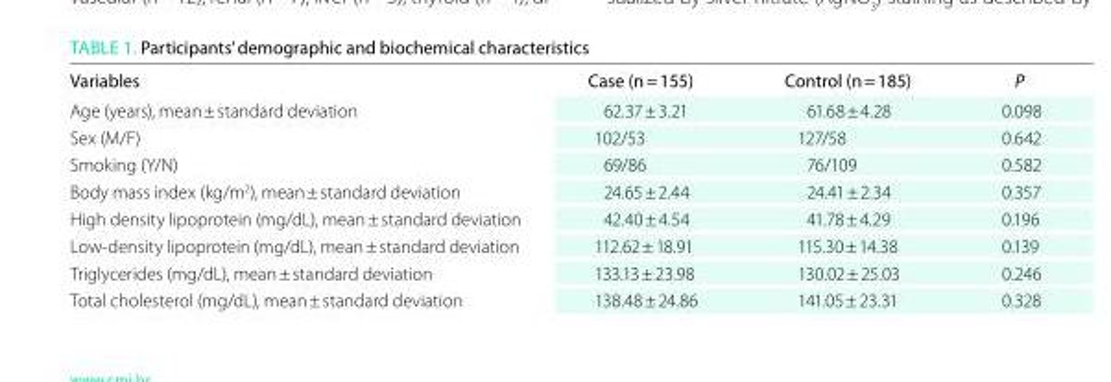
<table><thead><tr><td>Variables</td><td>Case (n = 155)</td><td>Control (n = 185)</td><td>P</td></tr></thead><tbody><tr><td>Age (years), mean ± standard deviation</td><td>62.37 ± 3.21</td><td>61.68 ± 4.28</td><td>0.098</td></tr><tr><td>Sex (M/F)</td><td>102/53</td><td>127/58</td><td>0.642</td></tr><tr><td>Smoking (Y/N)</td><td>69/86</td><td>76/109</td><td>0.582</td></tr><tr><td>Body mass index (kg/m<sup>2</sup>), mean ± standard deviation</td><td>24.65 ± 2.44</td><td>24.41 ± 2.34</td><td>0.357</td></tr><tr><td>High density lipoprotein (mg/dL), mean ± standard deviation</td><td>42.40 ± 4.54</td><td>41.78 ± 4.29</td><td>0.196</td></tr><tr><td>Low-density lipoprotein (mg/dL), mean ± standard deviation</td><td>112.62 ± 18.91</td><td>115.30 ± 14.38</td><td>0.139</td></tr><tr><td>Triglycerides (mg/dL), mean ± standard deviation</td><td>133.13 ± 23.98</td><td>130.02 ± 25.03</td><td>0.246</td></tr><tr><td>Total cholesterol (mg/dL), mean ± standard deviation</td><td>138.48 ± 24.86</td><td>141.05 ± 23.31</td><td>0.328</td></tr></tbody></table>